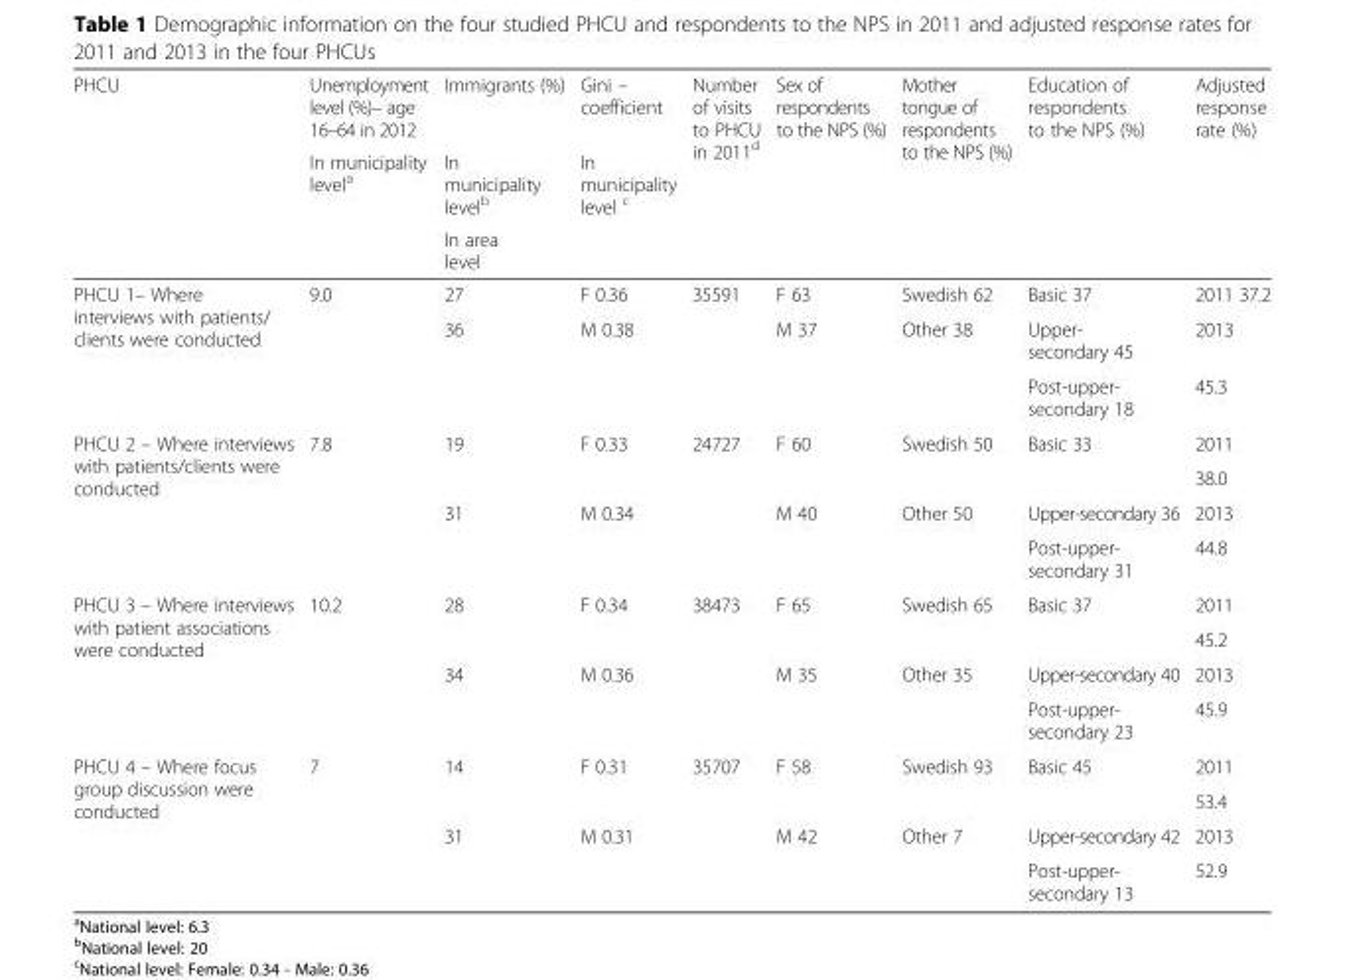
<table><thead><tr><td rowspan="3">PHCU</td><td rowspan="3">Unemployment level (%)– age 16–64 in 2012 In municipality level<sup>a</sup></td><td rowspan="3">Immigrants (%) In municipality level<sup>b</sup> In area level</td><td rowspan="3">Gini – coefficient In municipality level <sup>c</sup></td><td rowspan="3">Number of visits to PHCU in 2011<sup>d</sup></td><td rowspan="3">Sex of respondents to the NPS (%)</td><td rowspan="3">Mother tongue of respondents to the NPS (%)</td><td rowspan="3">Education of respondents to the NPS (%)</td><td rowspan="3">Adjusted response rate (%)</td></tr><tr></tr><tr></tr></thead><tbody><tr><td rowspan="3">PHCU 1– Where interviews with patients/ clients were conducted</td><td rowspan="3">9.0</td><td>27</td><td>F 0.36</td><td>35591</td><td>F 63</td><td>Swedish 62</td><td>Basic 37</td><td>2011 37.2</td></tr><tr><td rowspan="2">36</td><td rowspan="2">M 0.38</td><td rowspan="2"></td><td rowspan="2">M 37</td><td rowspan="2">Other 38</td><td>Upper- secondary 45</td><td>2013</td></tr><tr><td>Post-upper- secondary 18</td><td>45.3</td></tr><tr><td rowspan="4">PHCU 2 – Where interviews with patients/clients were conducted</td><td rowspan="4">7.8</td><td rowspan="2">19</td><td rowspan="2">F 0.33</td><td rowspan="2">24727</td><td rowspan="2">F 60</td><td rowspan="2">Swedish 50</td><td rowspan="2">Basic 33</td><td>2011</td></tr><tr><td>38.0</td></tr><tr><td rowspan="2">31</td><td rowspan="2">M 0.34</td><td rowspan="2"></td><td rowspan="2">M 40</td><td rowspan="2">Other 50</td><td>Upper-secondary 36</td><td>2013</td></tr><tr><td>Post-upper- secondary 31</td><td>44.8</td></tr><tr><td rowspan="4">PHCU 3 – Where interviews with patient associations were conducted</td><td rowspan="4">10.2</td><td rowspan="2">28</td><td rowspan="2">F 0.34</td><td rowspan="2">38473</td><td rowspan="2">F 65</td><td rowspan="2">Swedish 65</td><td rowspan="2">Basic 37</td><td>2011</td></tr><tr><td>45.2</td></tr><tr><td rowspan="2">34</td><td rowspan="2">M 0.36</td><td rowspan="2"></td><td rowspan="2">M 35</td><td rowspan="2">Other 35</td><td>Upper-secondary 40</td><td>2013</td></tr><tr><td>Post-upper- secondary 23</td><td>45.9</td></tr><tr><td rowspan="4">PHCU 4 – Where focus group discussion were conducted</td><td rowspan="4">7</td><td rowspan="2">14</td><td rowspan="2">F 0.31</td><td rowspan="2">35707</td><td rowspan="2">F 58</td><td rowspan="2">Swedish 93</td><td rowspan="2">Basic 45</td><td>2011</td></tr><tr><td>53.4</td></tr><tr><td rowspan="2">31</td><td rowspan="2">M 0.31</td><td rowspan="2"></td><td rowspan="2">M 42</td><td rowspan="2">Other 7</td><td>Upper-secondary 42</td><td>2013</td></tr><tr><td>Post-upper- secondary 13</td><td>52.9</td></tr></tbody></table>